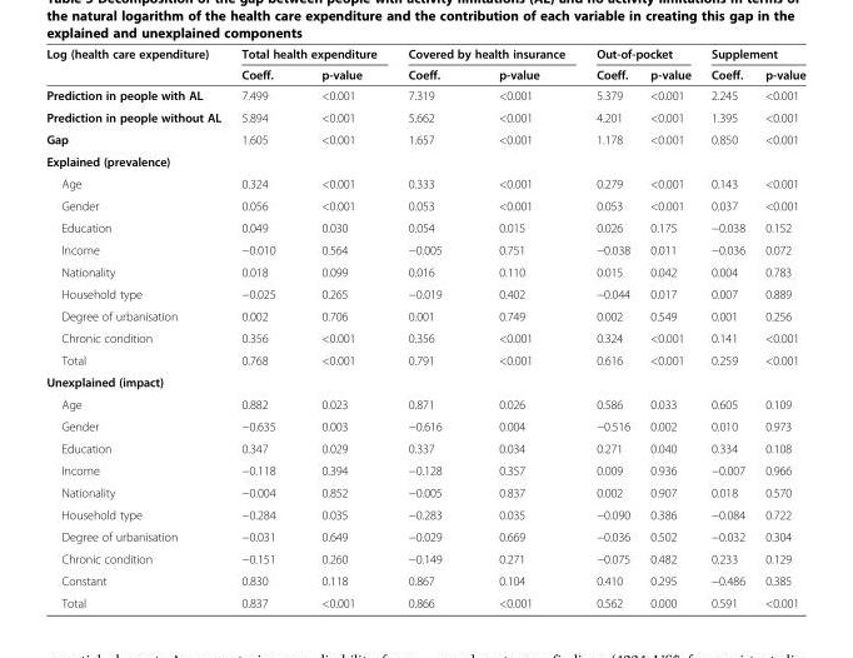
<table><thead><tr><td rowspan="2">Log (health care expenditure)</td><td colspan="2">Total health expenditure</td><td colspan="2">Covered by health insurance</td><td colspan="2">Out-of-pocket</td><td colspan="2">Supplement</td></tr><tr><td>Coeff.</td><td>p-value</td><td>Coeff.</td><td>p-value</td><td>Coeff.</td><td>p-value</td><td>Coeff.</td><td>p-value</td></tr></thead><tbody><tr><td>Prediction in people with AL</td><td>7.499</td><td>&lt;0.001</td><td>7.319</td><td>&lt;0.001</td><td>5.379</td><td>&lt;0.001</td><td>2.245</td><td>&lt;0.001</td></tr><tr><td>Prediction in people without AL</td><td>5.894</td><td>&lt;0.001</td><td>5.662</td><td>&lt;0.001</td><td>4.201</td><td>&lt;0.001</td><td>1.395</td><td>&lt;0.001</td></tr><tr><td>Gap</td><td>1.605</td><td>&lt;0.001</td><td>1.657</td><td>&lt;0.001</td><td>1.178</td><td>&lt;0.001</td><td>0.850</td><td>&lt;0.001</td></tr><tr><td colspan="9">Explained (prevalence)</td></tr><tr><td>Age</td><td>0.324</td><td>&lt;0.001</td><td>0.333</td><td>&lt;0.001</td><td>0.279</td><td>&lt;0.001</td><td>0.143</td><td>&lt;0.001</td></tr><tr><td>Gender</td><td>0.056</td><td>&lt;0.001</td><td>0.053</td><td>&lt;0.001</td><td>0.053</td><td>&lt;0.001</td><td>0.037</td><td>&lt;0.001</td></tr><tr><td>Education</td><td>0.049</td><td>0.030</td><td>0.054</td><td>0.015</td><td>0.026</td><td>0.175</td><td>−0.038</td><td>0.152</td></tr><tr><td>Income</td><td>−0.010</td><td>0.564</td><td>−0.005</td><td>0.751</td><td>−0.038</td><td>0.011</td><td>−0.036</td><td>0.072</td></tr><tr><td>Nationality</td><td>0.018</td><td>0.099</td><td>0.016</td><td>0.110</td><td>0.015</td><td>0.042</td><td>0.004</td><td>0.783</td></tr><tr><td>Household type</td><td>−0.025</td><td>0.265</td><td>−0.019</td><td>0.402</td><td>−0.044</td><td>0.017</td><td>0.007</td><td>0.889</td></tr><tr><td>Degree of urbanisation</td><td>0.002</td><td>0.706</td><td>0.001</td><td>0.749</td><td>0.002</td><td>0.549</td><td>0.001</td><td>0.256</td></tr><tr><td>Chronic condition</td><td>0.356</td><td>&lt;0.001</td><td>0.356</td><td>&lt;0.001</td><td>0.324</td><td>&lt;0.001</td><td>0.141</td><td>&lt;0.001</td></tr><tr><td>Total</td><td>0.768</td><td>&lt;0.001</td><td>0.791</td><td>&lt;0.001</td><td>0.616</td><td>&lt;0.001</td><td>0.259</td><td>&lt;0.001</td></tr><tr><td colspan="9">Unexplained (impact)</td></tr><tr><td>Age</td><td>0.882</td><td>0.023</td><td>0.871</td><td>0.026</td><td>0.586</td><td>0.033</td><td>0.605</td><td>0.109</td></tr><tr><td>Gender</td><td>−0.635</td><td>0.003</td><td>−0.616</td><td>0.004</td><td>−0.516</td><td>0.002</td><td>0.010</td><td>0.973</td></tr><tr><td>Education</td><td>0.347</td><td>0.029</td><td>0.337</td><td>0.034</td><td>0.271</td><td>0.040</td><td>0.334</td><td>0.108</td></tr><tr><td>Income</td><td>−0.118</td><td>0.394</td><td>−0.128</td><td>0.357</td><td>0.009</td><td>0.936</td><td>−0.007</td><td>0.966</td></tr><tr><td>Nationality</td><td>−0.004</td><td>0.852</td><td>−0.005</td><td>0.837</td><td>0.002</td><td>0.907</td><td>0.018</td><td>0.570</td></tr><tr><td>Household type</td><td>−0.284</td><td>0.035</td><td>−0.283</td><td>0.035</td><td>−0.090</td><td>0.386</td><td>−0.084</td><td>0.722</td></tr><tr><td>Degree of urbanisation</td><td>−0.031</td><td>0.649</td><td>−0.029</td><td>0.669</td><td>−0.036</td><td>0.502</td><td>−0.032</td><td>0.304</td></tr><tr><td>Chronic condition</td><td>−0.151</td><td>0.260</td><td>−0.149</td><td>0.271</td><td>−0.075</td><td>0.482</td><td>0.233</td><td>0.129</td></tr><tr><td>Constant</td><td>0.830</td><td>0.118</td><td>0.867</td><td>0.104</td><td>0.410</td><td>0.295</td><td>−0.486</td><td>0.385</td></tr><tr><td>Total</td><td>0.837</td><td>&lt;0.001</td><td>0.866</td><td>&lt;0.001</td><td>0.562</td><td>0.000</td><td>0.591</td><td>&lt;0.001</td></tr></tbody></table>